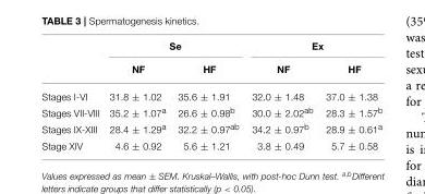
<table><thead><tr><td rowspan="2"></td><td colspan="2">Se</td><td colspan="2">Ex</td></tr><tr><td>NF</td><td>HF</td><td>NF</td><td>HF</td></tr></thead><tbody><tr><td>Stages I-VI</td><td>31.8 ± 1.02</td><td>35.6 ± 1.91</td><td>32.0 ± 1.48</td><td>37.0 ± 1.38</td></tr><tr><td>Stages VII-VIII</td><td>35.2 ± 1.07<sup>a</sup></td><td>26.6 ± 0.98<sup>b</sup></td><td>30.0 ± 2.02<sup>ab</sup></td><td>28.3 ± 1.57<sup>b</sup></td></tr><tr><td>Stages IX-XIII</td><td>28.4 ± 1.29<sup>a</sup></td><td>32.2 ± 0.97<sup>ab</sup></td><td>34.2 ± 0.97<sup>b</sup></td><td>28.9 ± 0.61<sup>a</sup></td></tr><tr><td>Stage XIV</td><td>4.6 ± 0.92</td><td>5.6 ± 1.21</td><td>3.8 ± 0.49</td><td>5.7 ± 0.58</td></tr></tbody></table>